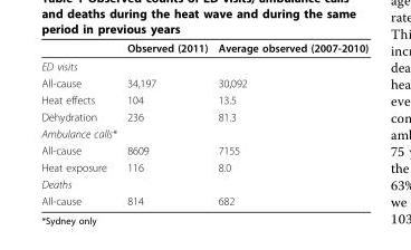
<table><thead><tr><td></td><td>Observed (2011)</td><td>Average observed (2007-2010)</td></tr></thead><tbody><tr><td colspan="3">ED visits</td></tr><tr><td>All-cause</td><td>34,197</td><td>30,092</td></tr><tr><td>Heat effects</td><td>104</td><td>13.5</td></tr><tr><td>Dehydration</td><td>236</td><td>81.3</td></tr><tr><td colspan="3">Ambulance calls*</td></tr><tr><td>All-cause</td><td>8609</td><td>7155</td></tr><tr><td>Heat exposure</td><td>116</td><td>8.0</td></tr><tr><td colspan="3">Deaths</td></tr><tr><td>All-cause</td><td>814</td><td>682</td></tr></tbody></table>